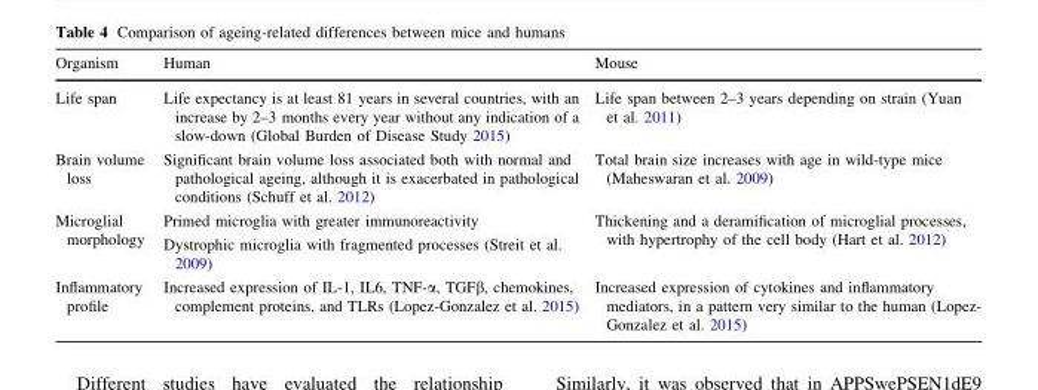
<table><thead><tr><td>Organism</td><td>Human</td><td>Mouse</td></tr></thead><tbody><tr><td>Life span</td><td>Life expectancy is at least 81 years in several countries, with an increase by 2–3 months every year without any indication of a slow-down (Global Burden of Disease Study 2015)</td><td>Life span between 2–3 years depending on strain (Yuan et al. 2011)</td></tr><tr><td>Brain volume loss</td><td>Significant brain volume loss associated both with normal and pathological ageing, although it is exacerbated in pathological conditions (Schuff et al. 2012)</td><td>Total brain size increases with age in wild-type mice (Maheswaran et al. 2009)</td></tr><tr><td>Microglial morphology</td><td>Primed microglia with greater immunoreactivity Dystrophic microglia with fragmented processes (Streit et al. 2009)</td><td>Thickening and a deramification of microglial processes, with hypertrophy of the cell body (Hart et al. 2012)</td></tr><tr><td>Inflammatory profile</td><td>Increased expression of IL-1, IL6, TNF-α, TGFβ, chemokines, complement proteins, and TLRs (Lopez-Gonzalez et al. 2015)</td><td>Increased expression of cytokines and inflammatory mediators, in a pattern very similar to the human (Lopez- Gonzalez et al. 2015)</td></tr></tbody></table>